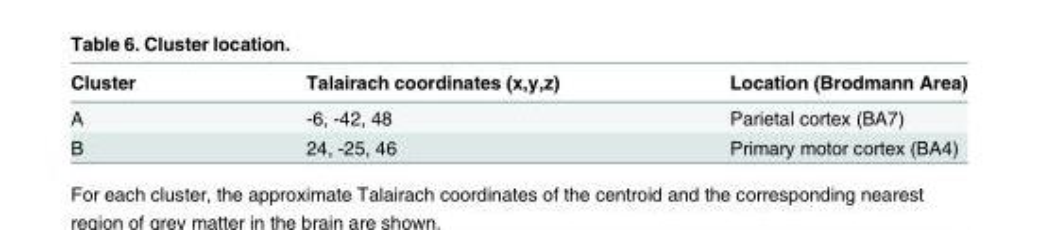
<table><thead><tr><td>Cluster</td><td>Talairach coordinates (x,y,z)</td><td>Location (Brodmann Area)</td></tr></thead><tbody><tr><td>A</td><td>-6, -42, 48</td><td>Parietal cortex (BA7)</td></tr><tr><td>B</td><td>24, -25, 46</td><td>Primary motor cortex (BA4)</td></tr></tbody></table>